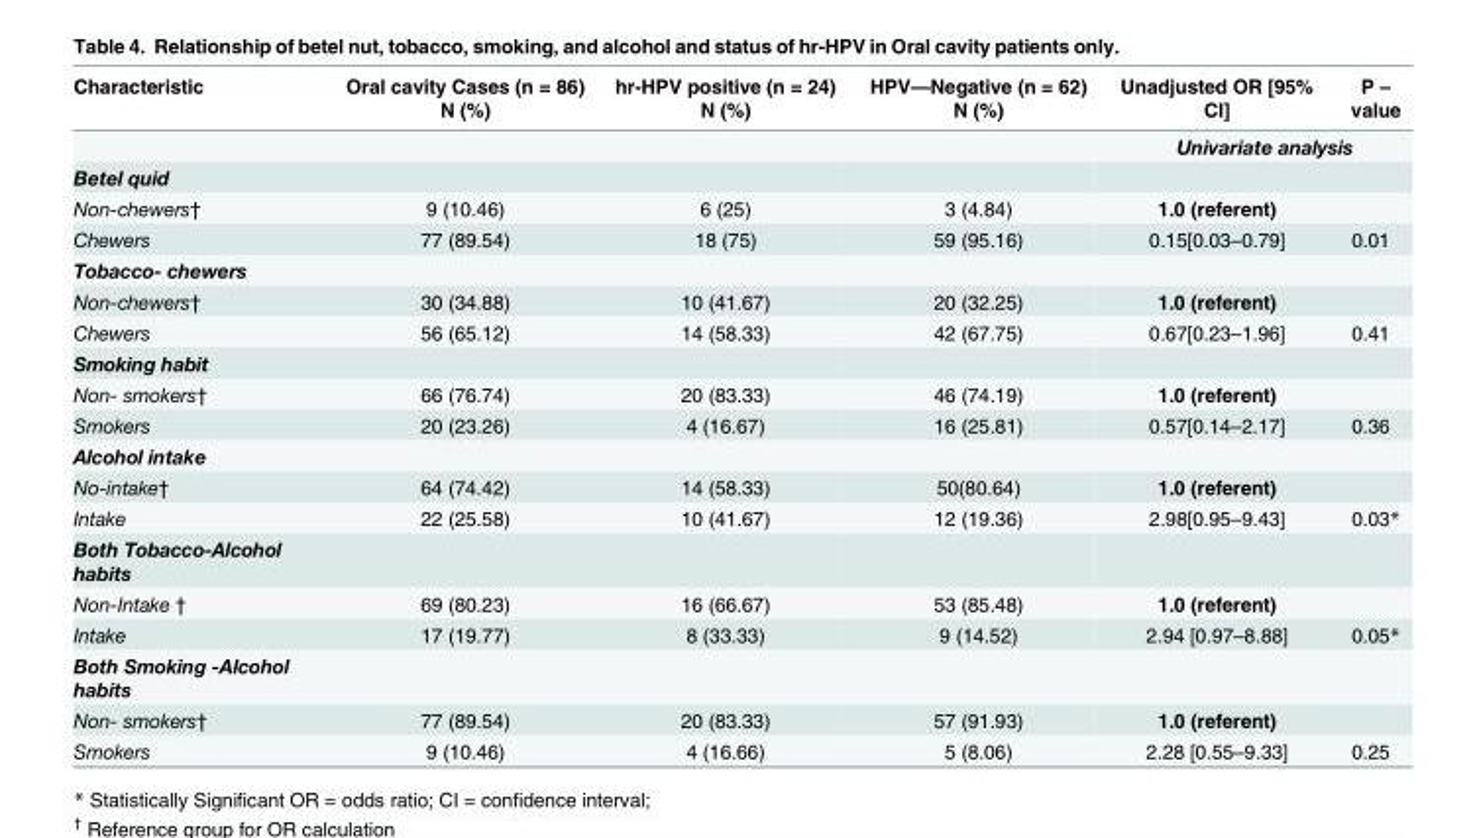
<table><thead><tr><td>Characteristic</td><td>Oral cavity Cases (n = 86) N (%)</td><td>hr-HPV positive (n = 24) N (%)</td><td>HPV—Negative (n = 62) N (%)</td><td>Unadjusted OR [95% CI]</td><td>P – value</td></tr></thead><tbody><tr><td colspan="4"></td><td colspan="2">Univariate analysis</td></tr><tr><td colspan="6">Betel quid</td></tr><tr><td>Non-chewers†</td><td>9 (10.46)</td><td>6 (25)</td><td>3 (4.84)</td><td>1.0 (referent)</td><td></td></tr><tr><td>Chewers</td><td>77 (89.54)</td><td>18 (75)</td><td>59 (95.16)</td><td>0.15[0.03–0.79]</td><td>0.01</td></tr><tr><td colspan="6">Tobacco- chewers</td></tr><tr><td>Non-chewers†</td><td>30 (34.88)</td><td>10 (41.67)</td><td>20 (32.25)</td><td>1.0 (referent)</td><td></td></tr><tr><td>Chewers</td><td>56 (65.12)</td><td>14 (58.33)</td><td>42 (67.75)</td><td>0.67[0.23–1.96]</td><td>0.41</td></tr><tr><td colspan="6">Smoking habit</td></tr><tr><td>Non- smokers†</td><td>66 (76.74)</td><td>20 (83.33)</td><td>46 (74.19)</td><td>1.0 (referent)</td><td></td></tr><tr><td>Smokers</td><td>20 (23.26)</td><td>4 (16.67)</td><td>16 (25.81)</td><td>0.57[0.14–2.17]</td><td>0.36</td></tr><tr><td colspan="6">Alcohol intake</td></tr><tr><td>No-intake†</td><td>64 (74.42)</td><td>14 (58.33)</td><td>50(80.64)</td><td>1.0 (referent)</td><td></td></tr><tr><td>Intake</td><td>22 (25.58)</td><td>10 (41.67)</td><td>12 (19.36)</td><td>2.98[0.95–9.43]</td><td>0.03*</td></tr><tr><td colspan="6">Both Tobacco-Alcohol habits</td></tr><tr><td>Non-Intake †</td><td>69 (80.23)</td><td>16 (66.67)</td><td>53 (85.48)</td><td>1.0 (referent)</td><td></td></tr><tr><td>Intake</td><td>17 (19.77)</td><td>8 (33.33)</td><td>9 (14.52)</td><td>2.94 [0.97–8.88]</td><td>0.05*</td></tr><tr><td colspan="6">Both Smoking -Alcohol habits</td></tr><tr><td>Non- smokers†</td><td>77 (89.54)</td><td>20 (83.33)</td><td>57 (91.93)</td><td>1.0 (referent)</td><td></td></tr><tr><td>Smokers</td><td>9 (10.46)</td><td>4 (16.66)</td><td>5 (8.06)</td><td>2.28 [0.55–9.33]</td><td>0.25</td></tr></tbody></table>